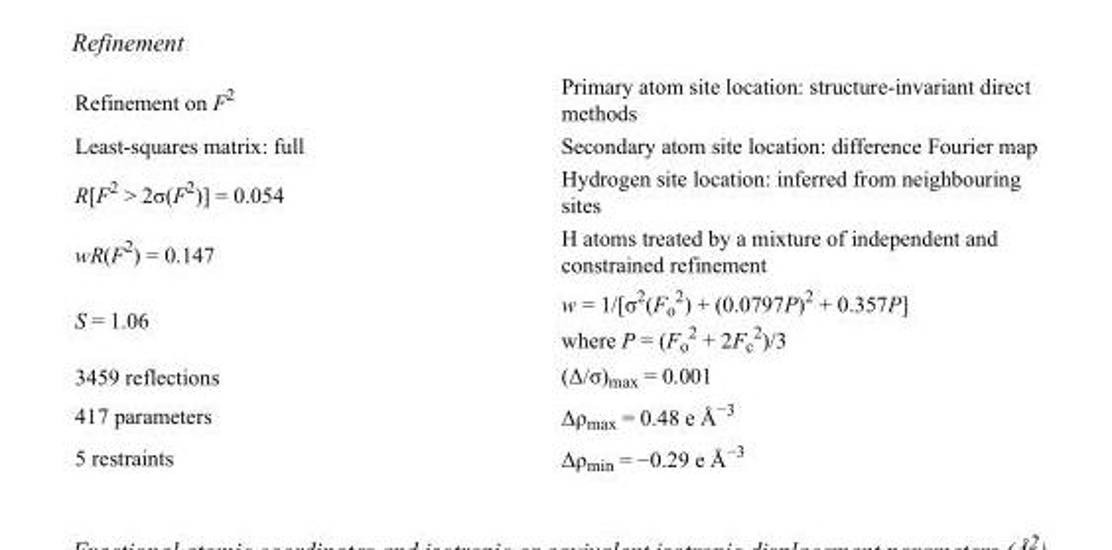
<table><tbody><tr><td>Refinement on F<sup>2</sup></td><td>Primary atom site location: structure-invariant direct methods</td></tr><tr><td>Least-squares matrix: full</td><td>Secondary atom site location: difference Fourier map</td></tr><tr><td>R[F<sup>2</sup> &gt; 2σ(F<sup>2</sup>)] = 0.054</td><td>Hydrogen site location: inferred from neighbouring sites</td></tr><tr><td>wR(F<sup>2</sup>) = 0.147</td><td>H atoms treated by a mixture of independent and constrained refinement</td></tr><tr><td>S = 1.06</td><td>w = 1/[σ<sup>2</sup>(F<sub>o</sub> <sup>2</sup>) + (0.0797P)<sup>2</sup> + 0.357P] where P = (F<sub>o</sub> <sup>2</sup> + 2F<sub>c</sub> <sup>2</sup>)/3</td></tr><tr><td>3459 reflections</td><td>(Δ/σ)<sub>max</sub> = 0.001</td></tr><tr><td>417 parameters</td><td>Δρ<sub>max</sub> = 0.48 e Å<sup>−3</sup></td></tr><tr><td>5 restraints</td><td>Δρ<sub>min</sub> = −0.29 e Å<sup>−3</sup></td></tr></tbody></table>